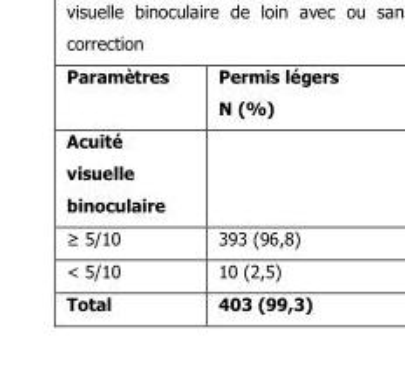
<table><thead><tr><td>Paramètres</td><td>Permis légers N (%)</td></tr></thead><tbody><tr><td colspan="2">Acuité visuelle binoculaire</td></tr><tr><td>≥ 5/10</td><td>393 (96,8)</td></tr><tr><td>&lt; 5/10</td><td>10 (2,5)</td></tr><tr><td>Total</td><td>403 (99,3)</td></tr></tbody></table>